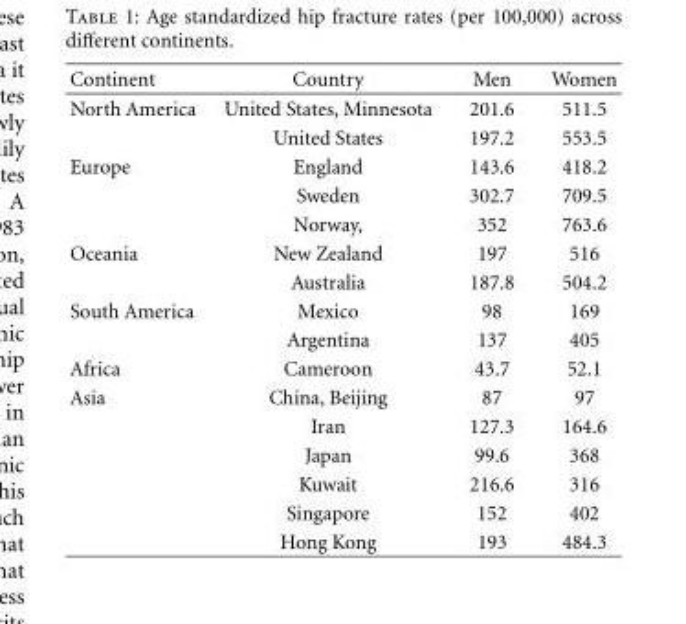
<table><thead><tr><td>Continent</td><td>Country</td><td>Men</td><td>Women</td></tr></thead><tbody><tr><td rowspan="2">North America</td><td>United States, Minnesota</td><td>201.6</td><td>511.5</td></tr><tr><td>United States</td><td>197.2</td><td>553.5</td></tr><tr><td rowspan="3">Europe</td><td>England</td><td>143.6</td><td>418.2</td></tr><tr><td>Sweden</td><td>302.7</td><td>709.5</td></tr><tr><td>Norway,</td><td>352</td><td>763.6</td></tr><tr><td rowspan="2">Oceania</td><td>New Zealand</td><td>197</td><td>516</td></tr><tr><td>Australia</td><td>187.8</td><td>504.2</td></tr><tr><td rowspan="2">South America</td><td>Mexico</td><td>98</td><td>169</td></tr><tr><td>Argentina</td><td>137</td><td>405</td></tr><tr><td>Africa</td><td>Cameroon</td><td>43.7</td><td>52.1</td></tr><tr><td rowspan="6">Asia</td><td>China, Beijing</td><td>87</td><td>97</td></tr><tr><td>Iran</td><td>127.3</td><td>164.6</td></tr><tr><td>Japan</td><td>99.6</td><td>368</td></tr><tr><td>Kuwait</td><td>216.6</td><td>316</td></tr><tr><td>Singapore</td><td>152</td><td>402</td></tr><tr><td>Hong Kong</td><td>193</td><td>484.3</td></tr></tbody></table>